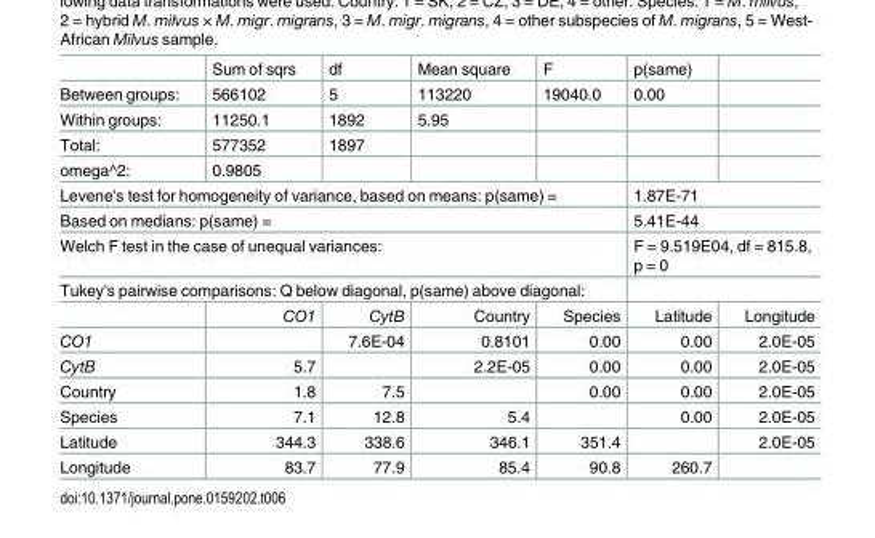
<table><thead><tr><td></td><td>Sum of sqrs</td><td>df</td><td>Mean square</td><td>F</td><td>p(same)</td><td></td></tr></thead><tbody><tr><td>Between groups:</td><td>566102</td><td>5</td><td>113220</td><td>19040.0</td><td>0.00</td><td></td></tr><tr><td>Within groups:</td><td>11250.1</td><td>1892</td><td>5.95</td><td></td><td></td><td></td></tr><tr><td>Total:</td><td>577352</td><td>1897</td><td></td><td></td><td></td><td></td></tr><tr><td>omega^2:</td><td>0.9805</td><td></td><td></td><td></td><td></td><td></td></tr><tr><td colspan="5">Levene&#x27;s test for homogeneity of variance, based on means: p(same) =</td><td colspan="2">1.87E-71</td></tr><tr><td colspan="5">Based on medians: p(same) =</td><td colspan="2">5.41E-44</td></tr><tr><td colspan="5">Welch F test in the case of unequal variances:</td><td colspan="2">F = 9.519E04, df = 815.8, p = 0</td></tr><tr><td colspan="7">Tukey&#x27;s pairwise comparisons: Q below diagonal, p(same) above diagonal:</td></tr><tr><td></td><td>CO1</td><td>CytB</td><td>Country</td><td>Species</td><td>Latitude</td><td>Longitude</td></tr><tr><td>CO1</td><td></td><td>7.6E-04</td><td>0.8101</td><td>0.00</td><td>0.00</td><td>2.0E-05</td></tr><tr><td>CytB</td><td>5.7</td><td></td><td>2.2E-05</td><td>0.00</td><td>0.00</td><td>2.0E-05</td></tr><tr><td>Country</td><td>1.8</td><td>7.5</td><td></td><td>0.00</td><td>0.00</td><td>2.0E-05</td></tr><tr><td>Species</td><td>7.1</td><td>12.8</td><td>5.4</td><td></td><td>0.00</td><td>2.0E-05</td></tr><tr><td>Latitude</td><td>344.3</td><td>338.6</td><td>346.1</td><td>351.4</td><td></td><td>2.0E-05</td></tr><tr><td>Longitude</td><td>83.7</td><td>77.9</td><td>85.4</td><td>90.8</td><td>260.7</td><td></td></tr></tbody></table>